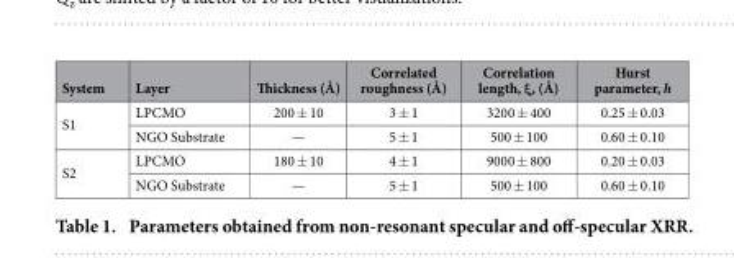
<table><thead><tr><td>System</td><td>Layer</td><td>Thickness (Å)</td><td>Correlated roughness (Å)</td><td>Correlation length, ξ, (Å)</td><td>Hurst parameter, h</td></tr></thead><tbody><tr><td rowspan="2">S1</td><td>LPCMO</td><td>200 ± 10</td><td>3 ± 1</td><td>3200 ± 400</td><td>0.25 ± 0.03</td></tr><tr><td>NGO Substrate</td><td>—</td><td>5 ± 1</td><td>500 ± 100</td><td>0.60 ± 0.10</td></tr><tr><td rowspan="2">S2</td><td>LPCMO</td><td>180 ± 10</td><td>4 ± 1</td><td>9000 ± 800</td><td>0.20 ± 0.03</td></tr><tr><td>NGO Substrate</td><td>—</td><td>5 ± 1</td><td>500 ± 100</td><td>0.60 ± 0.10</td></tr></tbody></table>